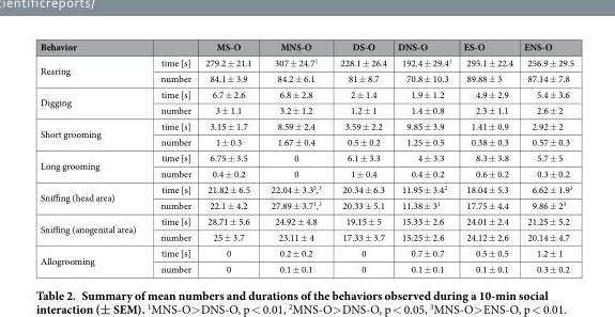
<table><thead><tr><td>Behavior</td><td></td><td>MS-O</td><td>MNS-O</td><td>DS-O</td><td>DNS-O</td><td>ES-O</td><td>ENS-O</td></tr></thead><tbody><tr><td rowspan="2">Rearing</td><td>time [s]</td><td>279.2 ± 21.1</td><td>307 ± 24.7<sup>1</sup></td><td>228.1 ± 26.4</td><td>192.4 ± 29.4<sup>1</sup></td><td>295.1 ± 22.4</td><td>256.9 ± 29.5</td></tr><tr><td>number</td><td>84.1 ± 3.9</td><td>84.2 ± 6.1</td><td>81 ± 8.7</td><td>70.8 ± 10.3</td><td>89.88 ± 3</td><td>87.14 ± 7.8</td></tr><tr><td rowspan="2">Digging</td><td>time [s]</td><td>6.7 ± 2.6</td><td>6.8 ± 2.8</td><td>2 ± 1.4</td><td>1.9 ± 1.2</td><td>4.9 ± 2.9</td><td>5.4 ± 3.6</td></tr><tr><td>number</td><td>3 ± 1.1</td><td>3.2 ± 1.2</td><td>1.2 ± 1</td><td>1.4 ± 0.8</td><td>2.3 ± 1.1</td><td>2.6 ± 2</td></tr><tr><td rowspan="2">Short grooming</td><td>time [s]</td><td>3.15 ± 1.7</td><td>8.59 ± 2.4</td><td>3.59 ± 2.2</td><td>9.85 ± 3.9</td><td>1.41 ± 0.9</td><td>2.92 ± 2</td></tr><tr><td>number</td><td>1 ± 0.3</td><td>1.67 ± 0.4</td><td>0.5 ± 0.2</td><td>1.25 ± 0.5</td><td>0.38 ± 0.3</td><td>0.57 ± 0.3</td></tr><tr><td rowspan="2">Long grooming</td><td>time [s]</td><td>6.75 ± 3.5</td><td>0</td><td>6.1 ± 3.3</td><td>4 ± 3.3</td><td>8.3 ± 3.8</td><td>5.7 ± 5</td></tr><tr><td>number</td><td>0.4 ± 0.2</td><td>0</td><td>1 ± 0.4</td><td>0.4 ± 0.2</td><td>0.6 ± 0.2</td><td>0.3 ± 0.2</td></tr><tr><td rowspan="2">Sniffing (head area)</td><td>time [s]</td><td>21.82 ± 6.5</td><td>22.04 ± 3.3<sup>2</sup>,<sup>3</sup></td><td>20.34 ± 6.3</td><td>11.95 ± 3.4<sup>2</sup></td><td>18.04 ± 5.3</td><td>6.62 ± 1.9<sup>3</sup></td></tr><tr><td>number</td><td>22.1 ± 4.2</td><td>27.89 ± 3.7<sup>1</sup>,<sup>3</sup></td><td>20.33 ± 5.1</td><td>11.38 ± 3<sup>1</sup></td><td>17.75 ± 4.4</td><td>9.86 ± 2<sup>3</sup></td></tr><tr><td rowspan="2">Sniffing (anogenital area)</td><td>time [s]</td><td>28.71 ± 5.6</td><td>24.92 ± 4.8</td><td>19.15 ± 5</td><td>15.33 ± 2.6</td><td>24.01 ± 2.4</td><td>21.25 ± 5.2</td></tr><tr><td>number</td><td>25 ± 3.7</td><td>23.11 ± 4</td><td>17.33 ± 3.7</td><td>15.25 ± 2.6</td><td>24.12 ± 2.6</td><td>20.14 ± 4.7</td></tr><tr><td rowspan="2">Allogrooming</td><td>time [s]</td><td>0</td><td>0.2 ± 0.2</td><td>0</td><td>0.7 ± 0.7</td><td>0.5 ± 0.5</td><td>1.2 ± 1</td></tr><tr><td>number</td><td>0</td><td>0.1 ± 0.1</td><td>0</td><td>0.1 ± 0.1</td><td>0.1 ± 0.1</td><td>0.3 ± 0.2</td></tr></tbody></table>